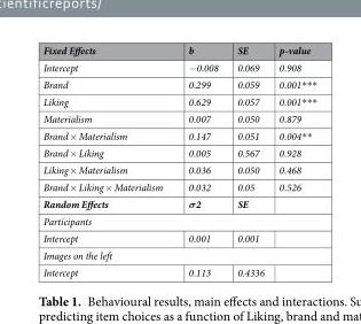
<table><thead><tr><td>Fixed Effects</td><td>b</td><td>SE</td><td>p-value</td></tr></thead><tbody><tr><td>Intercept</td><td>−0.008</td><td>0.069</td><td>0.908</td></tr><tr><td>Brand</td><td>0.299</td><td>0.059</td><td>0.001***</td></tr><tr><td>Liking</td><td>0.629</td><td>0.057</td><td>0.001***</td></tr><tr><td>Materialism</td><td>0.007</td><td>0.050</td><td>0.879</td></tr><tr><td>Brand × Materialism</td><td>0.147</td><td>0.051</td><td>0.004**</td></tr><tr><td>Brand × Liking</td><td>0.005</td><td>0.567</td><td>0.928</td></tr><tr><td>Liking × Materialism</td><td>0.036</td><td>0.050</td><td>0.468</td></tr><tr><td>Brand × Liking × Materialism</td><td>0.032</td><td>0.05</td><td>0.526</td></tr><tr><td>Random Effects</td><td>σ2</td><td>SE</td><td></td></tr><tr><td colspan="4">Participants</td></tr><tr><td>Intercept</td><td>0.001</td><td>0.001</td><td></td></tr><tr><td colspan="4">Images on the left</td></tr><tr><td>Intercept</td><td>0.113</td><td>0.4336</td><td></td></tr></tbody></table>